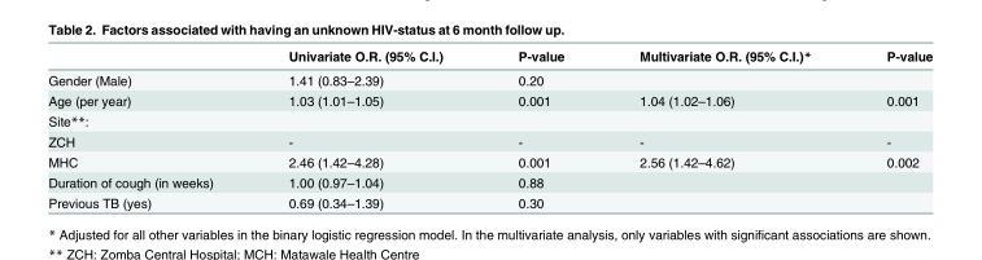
<table><thead><tr><td></td><td>Univariate O.R. (95% C.I.)</td><td>P-value</td><td>Multivariate O.R. (95% C.I.)*</td><td>P-value</td></tr></thead><tbody><tr><td>Gender (Male)</td><td>1.41 (0.83–2.39)</td><td>0.20</td><td></td><td></td></tr><tr><td>Age (per year)</td><td>1.03 (1.01–1.05)</td><td>0.001</td><td>1.04 (1.02–1.06)</td><td>0.001</td></tr><tr><td colspan="5">Site**:</td></tr><tr><td>ZCH</td><td>-</td><td>-</td><td>-</td><td>-</td></tr><tr><td>MHC</td><td>2.46 (1.42–4.28)</td><td>0.001</td><td>2.56 (1.42–4.62)</td><td>0.002</td></tr><tr><td>Duration of cough (in weeks)</td><td>1.00 (0.97–1.04)</td><td>0.88</td><td></td><td></td></tr><tr><td>Previous TB (yes)</td><td>0.69 (0.34–1.39)</td><td>0.30</td><td></td><td></td></tr></tbody></table>